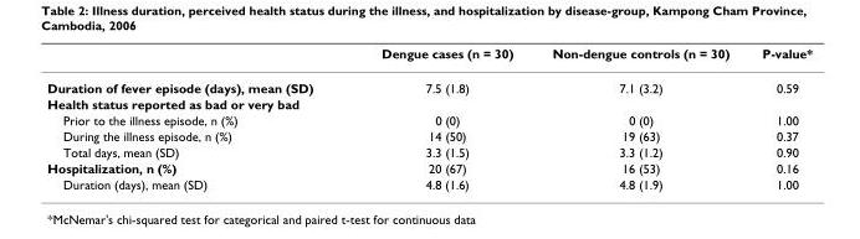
<table><thead><tr><td></td><td>Dengue cases (n = 30)</td><td>Non-dengue controls (n = 30)</td><td>P-value*</td></tr></thead><tbody><tr><td>Duration of fever episode (days), mean (SD)</td><td>7.5 (1.8)</td><td>7.1 (3.2)</td><td>0.59</td></tr><tr><td colspan="4">Health status reported as bad or very bad</td></tr><tr><td>Prior to the illness episode, n (%)</td><td>0 (0)</td><td>0 (0)</td><td>1.00</td></tr><tr><td>During the illness episode, n (%)</td><td>14 (50)</td><td>19 (63)</td><td>0.37</td></tr><tr><td>Total days, mean (SD)</td><td>3.3 (1.5)</td><td>3.3 (1.2)</td><td>0.90</td></tr><tr><td>Hospitalization, n (%)</td><td>20 (67)</td><td>16 (53)</td><td>0.16</td></tr><tr><td>Duration (days), mean (SD)</td><td>4.8 (1.6)</td><td>4.8 (1.9)</td><td>1.00</td></tr></tbody></table>